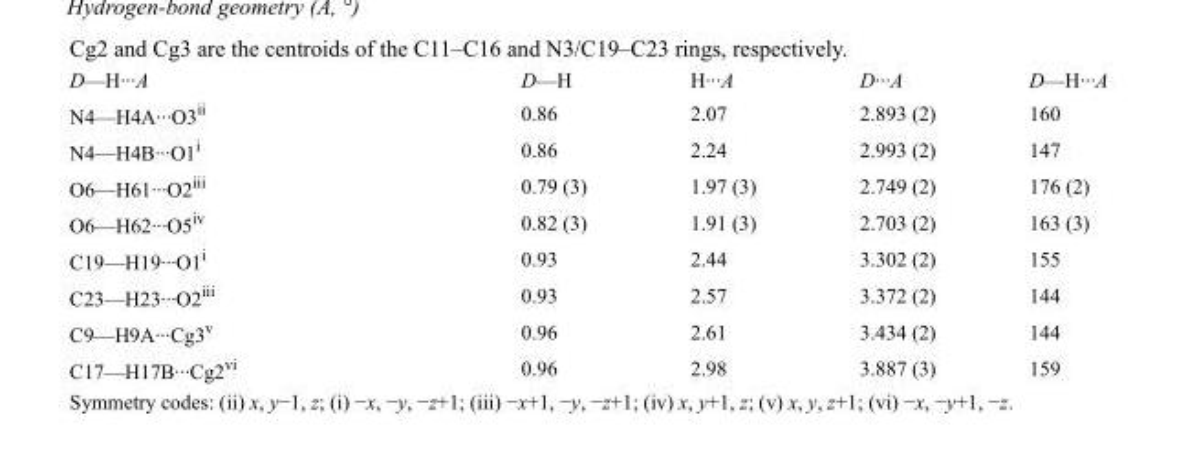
<table><tbody><tr><td>D—H···A</td><td>D—H</td><td>H···A</td><td>D···A</td><td>D—H···A</td></tr><tr><td>N4—H4A···O3<sup>ii</sup></td><td>0.86</td><td>2.07</td><td>2.893 (2)</td><td>160</td></tr><tr><td>N4—H4B···O1<sup>i</sup></td><td>0.86</td><td>2.24</td><td>2.993 (2)</td><td>147</td></tr><tr><td>O6—H61···O2<sup>iii</sup></td><td>0.79 (3)</td><td>1.97 (3)</td><td>2.749 (2)</td><td>176 (2)</td></tr><tr><td>O6—H62···O5<sup>iv</sup></td><td>0.82 (3)</td><td>1.91 (3)</td><td>2.703 (2)</td><td>163 (3)</td></tr><tr><td>C19—H19···O1<sup>i</sup></td><td>0.93</td><td>2.44</td><td>3.302 (2)</td><td>155</td></tr><tr><td>C23—H23···O2<sup>iii</sup></td><td>0.93</td><td>2.57</td><td>3.372 (2)</td><td>144</td></tr><tr><td>C9—H9A···Cg3<sup>v</sup></td><td>0.96</td><td>2.61</td><td>3.434 (2)</td><td>144</td></tr><tr><td>C17—H17B···Cg2<sup>vi</sup></td><td>0.96</td><td>2.98</td><td>3.887 (3)</td><td>159</td></tr></tbody></table>